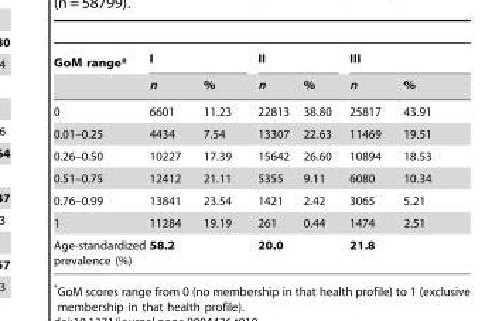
<table><thead><tr><td rowspan="2">GoM range*</td><td colspan="2">I</td><td colspan="2">II</td><td colspan="2">III</td></tr><tr><td>n</td><td>%</td><td>n</td><td>%</td><td>n</td><td>%</td></tr></thead><tbody><tr><td>0</td><td>6601</td><td>11.23</td><td>22813</td><td>38.80</td><td>25817</td><td>43.91</td></tr><tr><td>0.01–0.25</td><td>4434</td><td>7.54</td><td>13307</td><td>22.63</td><td>11469</td><td>19.51</td></tr><tr><td>0.26–0.50</td><td>10227</td><td>17.39</td><td>15642</td><td>26.60</td><td>10894</td><td>18.53</td></tr><tr><td>0.51–0.75</td><td>12412</td><td>21.11</td><td>5355</td><td>9.11</td><td>6080</td><td>10.34</td></tr><tr><td>0.76–0.99</td><td>13841</td><td>23.54</td><td>1421</td><td>2.42</td><td>3065</td><td>5.21</td></tr><tr><td>1</td><td>11284</td><td>19.19</td><td>261</td><td>0.44</td><td>1474</td><td>2.51</td></tr><tr><td>Age-standardized prevalence (%)</td><td colspan="2">58.2</td><td colspan="2">20.0</td><td colspan="2">21.8</td></tr></tbody></table>